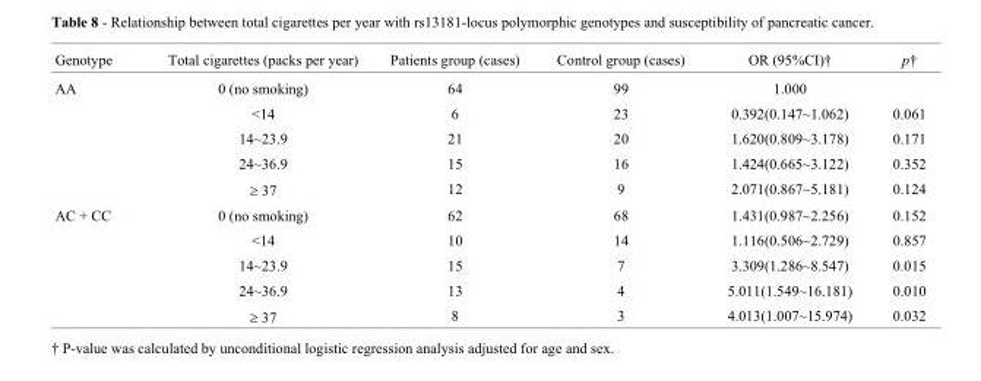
<table><thead><tr><td>Genotype</td><td>Total cigarettes (packs per year)</td><td>Patients group (cases)</td><td>Control group (cases)</td><td>OR (95%CI)†</td><td>p†</td></tr></thead><tbody><tr><td rowspan="5">AA</td><td>0 (no smoking)</td><td>64</td><td>99</td><td>1.000</td><td></td></tr><tr><td>&lt;14</td><td>6</td><td>23</td><td>0.392(0.147~1.062)</td><td>0.061</td></tr><tr><td>14~23.9</td><td>21</td><td>20</td><td>1.620(0.809~3.178)</td><td>0.171</td></tr><tr><td>24~36.9</td><td>15</td><td>16</td><td>1.424(0.665~3.122)</td><td>0.352</td></tr><tr><td>≥ 37</td><td>12</td><td>9</td><td>2.071(0.867~5.181)</td><td>0.124</td></tr><tr><td rowspan="5">AC + CC</td><td>0 (no smoking)</td><td>62</td><td>68</td><td>1.431(0.987~2.256)</td><td>0.152</td></tr><tr><td>&lt;14</td><td>10</td><td>14</td><td>1.116(0.506~2.729)</td><td>0.857</td></tr><tr><td>14~23.9</td><td>15</td><td>7</td><td>3.309(1.286~8.547)</td><td>0.015</td></tr><tr><td>24~36.9</td><td>13</td><td>4</td><td>5.011(1.549~16.181)</td><td>0.010</td></tr><tr><td>≥ 37</td><td>8</td><td>3</td><td>4.013(1.007~15.974)</td><td>0.032</td></tr></tbody></table>